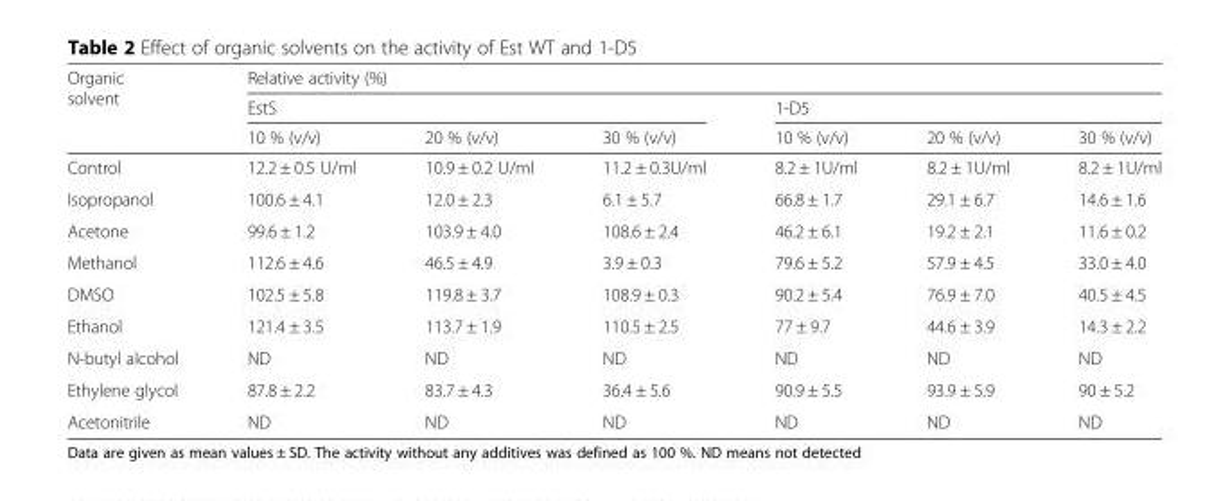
<table><thead><tr><td rowspan="3">Organic solvent</td><td colspan="6">Relative activity (%)</td></tr><tr><td colspan="3">EstS</td><td colspan="3">1-D5</td></tr><tr><td>10 % (v/v)</td><td>20 % (v/v)</td><td>30 % (v/v)</td><td>10 % (v/v)</td><td>20 % (v/v)</td><td>30 % (v/v)</td></tr></thead><tbody><tr><td>Control</td><td>12.2 ± 0.5 U/ml</td><td>10.9 ± 0.2 U/ml</td><td>11.2 ± 0.3U/ml</td><td>8.2 ± 1U/ml</td><td>8.2 ± 1U/ml</td><td>8.2 ± 1U/ml</td></tr><tr><td>Isopropanol</td><td>100.6 ± 4.1</td><td>12.0 ± 2.3</td><td>6.1 ± 5.7</td><td>66.8 ± 1.7</td><td>29.1 ± 6.7</td><td>14.6 ± 1.6</td></tr><tr><td>Acetone</td><td>99.6 ± 1.2</td><td>103.9 ± 4.0</td><td>108.6 ± 2.4</td><td>46.2 ± 6.1</td><td>19.2 ± 2.1</td><td>11.6 ± 0.2</td></tr><tr><td>Methanol</td><td>112.6 ± 4.6</td><td>46.5 ± 4.9</td><td>3.9 ± 0.3</td><td>79.6 ± 5.2</td><td>57.9 ± 4.5</td><td>33.0 ± 4.0</td></tr><tr><td>DMSO</td><td>102.5 ± 5.8</td><td>119.8 ± 3.7</td><td>108.9 ± 0.3</td><td>90.2 ± 5.4</td><td>76.9 ± 7.0</td><td>40.5 ± 4.5</td></tr><tr><td>Ethanol</td><td>121.4 ± 3.5</td><td>113.7 ± 1.9</td><td>110.5 ± 2.5</td><td>77 ± 9.7</td><td>44.6 ± 3.9</td><td>14.3 ± 2.2</td></tr><tr><td>N-butyl alcohol</td><td>ND</td><td>ND</td><td>ND</td><td>ND</td><td>ND</td><td>ND</td></tr><tr><td>Ethylene glycol</td><td>87.8 ± 2.2</td><td>83.7 ± 4.3</td><td>36.4 ± 5.6</td><td>90.9 ± 5.5</td><td>93.9 ± 5.9</td><td>90 ± 5.2</td></tr><tr><td>Acetonitrile</td><td>ND</td><td>ND</td><td>ND</td><td>ND</td><td>ND</td><td>ND</td></tr></tbody></table>